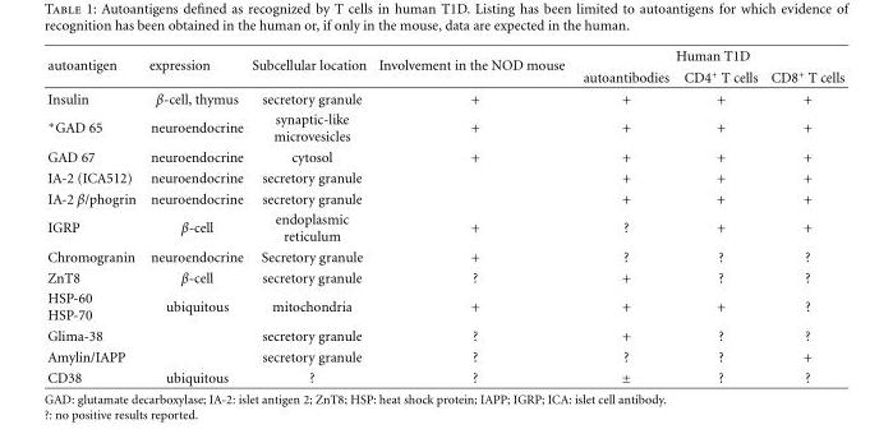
<table><thead><tr><td rowspan="2">autoantigen</td><td rowspan="2">expression</td><td rowspan="2">Subcellular location</td><td rowspan="2">Involvement in the NOD mouse</td><td colspan="3">Human T1D</td></tr><tr><td>autoantibodies</td><td>CD4<sup>+</sup> T cells</td><td>CD8<sup>+</sup> T cells</td></tr></thead><tbody><tr><td>Insulin</td><td>β-cell, thymus</td><td>secretory granule</td><td>+</td><td>+</td><td>+</td><td>+</td></tr><tr><td>∗GAD 65</td><td>neuroendocrine</td><td>synaptic-like microvesicles</td><td>+</td><td>+</td><td>+</td><td>+</td></tr><tr><td>GAD 67</td><td>neuroendocrine</td><td>cytosol</td><td>+</td><td>+</td><td>+</td><td>+</td></tr><tr><td>IA-2 (ICA512)</td><td>neuroendocrine</td><td>secretory granule</td><td></td><td>+</td><td>+</td><td>+</td></tr><tr><td>IA-2 β/phogrin</td><td>neuroendocrine</td><td>secretory granule</td><td></td><td>+</td><td>+</td><td>+</td></tr><tr><td>IGRP</td><td>β-cell</td><td>endoplasmic reticulum</td><td>+</td><td>?</td><td>+</td><td>+</td></tr><tr><td>Chromogranin</td><td>neuroendocrine</td><td>Secretory granule</td><td>+</td><td>?</td><td>?</td><td>?</td></tr><tr><td>ZnT8</td><td>β-cell</td><td>secretory granule</td><td>?</td><td>+</td><td>?</td><td>?</td></tr><tr><td>HSP-60 HSP-70</td><td>ubiquitous</td><td>mitochondria</td><td>+</td><td>+</td><td>+</td><td>?</td></tr><tr><td>Glima-38</td><td></td><td>secretory granule</td><td>?</td><td>+</td><td>?</td><td>?</td></tr><tr><td>Amylin/IAPP</td><td></td><td>secretory granule</td><td>?</td><td>?</td><td>?</td><td>+</td></tr><tr><td>CD38</td><td>ubiquitous</td><td>?</td><td>?</td><td>±</td><td>?</td><td>?</td></tr></tbody></table>